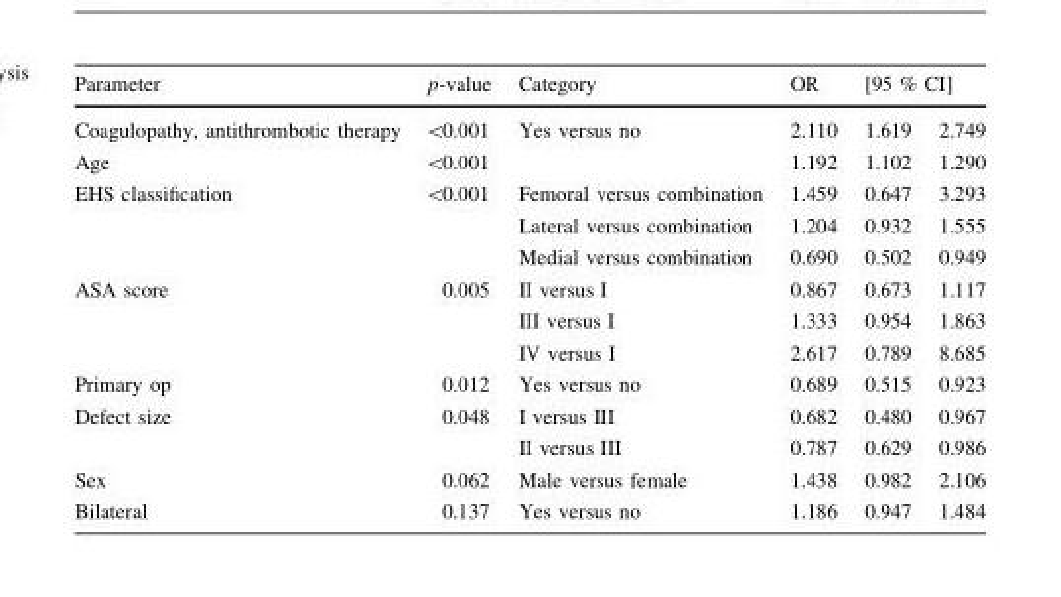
<table><thead><tr><td rowspan="2">Parameter Coagulopathy, antithrombotic therapy</td><td rowspan="2">p-value &lt;0.001</td><td rowspan="2">Category Yes versus no</td><td rowspan="2">OR 2.110</td><td colspan="2">[95 % CI]</td></tr><tr><td>1.619</td><td>2.749</td></tr></thead><tbody><tr><td>Age</td><td>&lt;0.001</td><td></td><td>1.192</td><td>1.102</td><td>1.290</td></tr><tr><td rowspan="3">EHS classification</td><td rowspan="3">&lt;0.001</td><td>Femoral versus combination</td><td>1.459</td><td>0.647</td><td>3.293</td></tr><tr><td>Lateral versus combination</td><td>1.204</td><td>0.932</td><td>1.555</td></tr><tr><td>Medial versus combination</td><td>0.690</td><td>0.502</td><td>0.949</td></tr><tr><td rowspan="3">ASA score</td><td rowspan="3">0.005</td><td>II versus I</td><td>0.867</td><td>0.673</td><td>1.117</td></tr><tr><td>III versus I</td><td>1.333</td><td>0.954</td><td>1.863</td></tr><tr><td>IV versus I</td><td>2.617</td><td>0.789</td><td>8.685</td></tr><tr><td>Primary op</td><td>0.012</td><td>Yes versus no</td><td>0.689</td><td>0.515</td><td>0.923</td></tr><tr><td rowspan="2">Defect size</td><td rowspan="2">0.048</td><td>I versus III</td><td>0.682</td><td>0.480</td><td>0.967</td></tr><tr><td>II versus III</td><td>0.787</td><td>0.629</td><td>0.986</td></tr><tr><td>Sex</td><td>0.062</td><td>Male versus female</td><td>1.438</td><td>0.982</td><td>2.106</td></tr><tr><td>Bilateral</td><td>0.137</td><td>Yes versus no</td><td>1.186</td><td>0.947</td><td>1.484</td></tr></tbody></table>